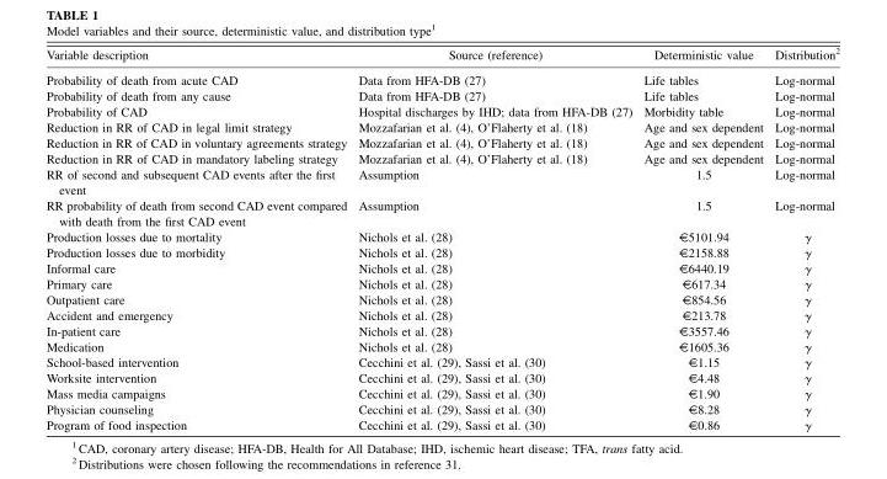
<table><thead><tr><td>Variable description</td><td>Source (reference)</td><td>Deterministic value</td><td>Distribution<sup>2</sup></td></tr></thead><tbody><tr><td>Probability of death from acute CAD</td><td>Data from HFA-DB (27)</td><td>Life tables</td><td>Log-normal</td></tr><tr><td>Probability of death from any cause</td><td>Data from HFA-DB (27)</td><td>Life tables</td><td>Log-normal</td></tr><tr><td>Probability of CAD</td><td>Hospital discharges by IHD; data from HFA-DB (27)</td><td>Morbidity table</td><td>Log-normal</td></tr><tr><td>Reduction in RR of CAD in legal limit strategy</td><td>Mozzafarian et al. (4), O’Flaherty et al. (18)</td><td>Age and sex dependent</td><td>Log-normal</td></tr><tr><td>Reduction in RR of CAD in voluntary agreements strategy</td><td>Mozzafarian et al. (4), O’Flaherty et al. (18)</td><td>Age and sex dependent</td><td>Log-normal</td></tr><tr><td>Reduction in RR of CAD in mandatory labeling strategy</td><td>Mozzafarian et al. (4), O’Flaherty et al. (18)</td><td>Age and sex dependent</td><td>Log-normal</td></tr><tr><td>RR of second and subsequent CAD events after the first event</td><td>Assumption</td><td>1.5</td><td>Log-normal</td></tr><tr><td>RR probability of death from second CAD event compared with death from the first CAD event</td><td>Assumption</td><td>1.5</td><td>Log-normal</td></tr><tr><td>Production losses due to mortality</td><td>Nichols et al. (28)</td><td>€5101.94</td><td>γ</td></tr><tr><td>Production losses due to morbidity</td><td>Nichols et al. (28)</td><td>€2158.88</td><td>γ</td></tr><tr><td>Informal care</td><td>Nichols et al. (28)</td><td>€6440.19</td><td>γ</td></tr><tr><td>Primary care</td><td>Nichols et al. (28)</td><td>€617.34</td><td>γ</td></tr><tr><td>Outpatient care</td><td>Nichols et al. (28)</td><td>€854.56</td><td>γ</td></tr><tr><td>Accident and emergency</td><td>Nichols et al. (28)</td><td>€213.78</td><td>γ</td></tr><tr><td>In-patient care</td><td>Nichols et al. (28)</td><td>€3557.46</td><td>γ</td></tr><tr><td>Medication</td><td>Nichols et al. (28)</td><td>€1605.36</td><td>γ</td></tr><tr><td>School-based intervention</td><td>Cecchini et al. (29), Sassi et al. (30)</td><td>€1.15</td><td>γ</td></tr><tr><td>Worksite intervention</td><td>Cecchini et al. (29), Sassi et al. (30)</td><td>€4.48</td><td>γ</td></tr><tr><td>Mass media campaigns</td><td>Cecchini et al. (29), Sassi et al. (30)</td><td>€1.90</td><td>γ</td></tr><tr><td>Physician counseling</td><td>Cecchini et al. (29), Sassi et al. (30)</td><td>€8.28</td><td>γ</td></tr><tr><td>Program of food inspection</td><td>Cecchini et al. (29), Sassi et al. (30)</td><td>€0.86</td><td>γ</td></tr></tbody></table>